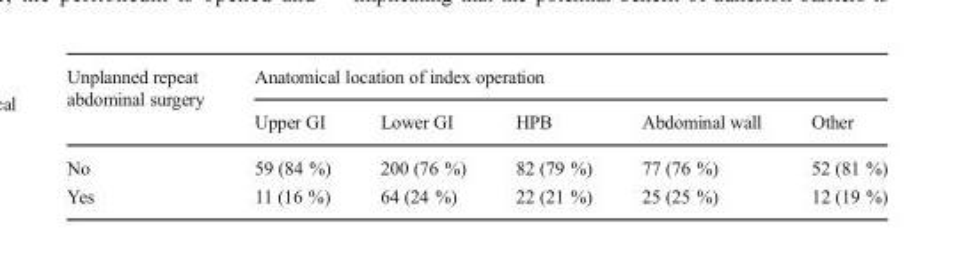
<table><thead><tr><td rowspan="2">Unplanned repeat abdominal surgery</td><td colspan="5">Anatomical location of index operation</td></tr><tr><td>Upper GI</td><td>Lower GI</td><td>HPB</td><td>Abdominal wall</td><td>Other</td></tr></thead><tbody><tr><td>No</td><td>59 (84 %)</td><td>200 (76 %)</td><td>82 (79 %)</td><td>77 (76 %)</td><td>52 (81 %)</td></tr><tr><td>Yes</td><td>11 (16 %)</td><td>64 (24 %)</td><td>22 (21 %)</td><td>25 (25 %)</td><td>12 (19 %)</td></tr></tbody></table>